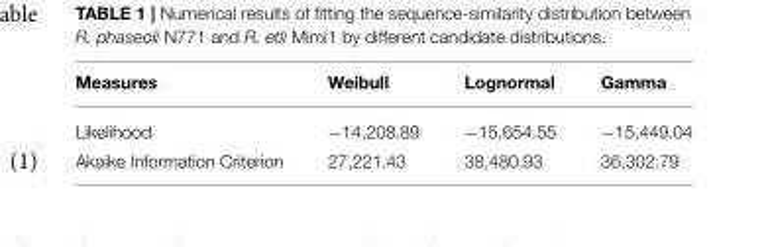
<table><thead><tr><td>Measures</td><td>Weibull</td><td>Lognormal</td><td>Gamma</td></tr></thead><tbody><tr><td>Likelihood</td><td>−14,208.89</td><td>−15,654.55</td><td>−15,449.04</td></tr><tr><td>Akaike Information Criterion</td><td>27,221.43</td><td>38,480.93</td><td>36,302.79</td></tr></tbody></table>